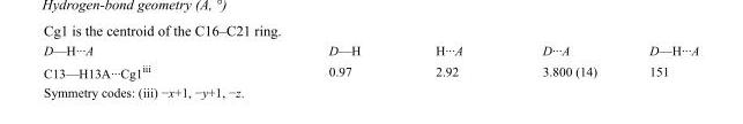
<table><tbody><tr><td>D—H···A</td><td>D—H</td><td>H···A</td><td>D···A</td><td>D—H···A</td></tr><tr><td>C13—H13A···Cg1<sup>iii</sup></td><td>0.97</td><td>2.92</td><td>3.800 (14)</td><td>151</td></tr></tbody></table>